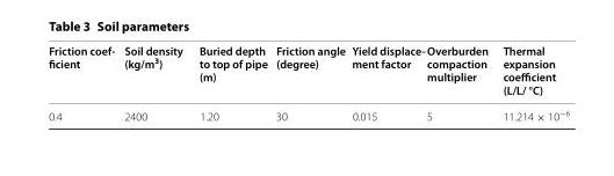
<table><thead><tr><td>Friction coef- ficient</td><td>Soil density (kg/m<sup>3</sup>)</td><td>Buried depth to top of pipe (m)</td><td>Friction angle (degree)</td><td>Yield displace- ment factor</td><td>Overburden compaction multiplier</td><td>Thermal expansion coefficient (L/L/ °C)</td></tr></thead><tbody><tr><td>0.4</td><td>2400</td><td>1.20</td><td>30</td><td>0.015</td><td>5</td><td>11.214 × 10<sup>−6</sup></td></tr></tbody></table>